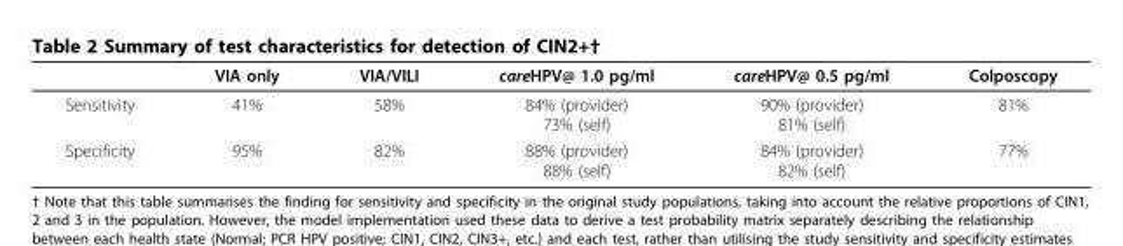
<table><thead><tr><td></td><td>VIA only</td><td>VIA/VILI</td><td>careHPV@ 1.0 pg/ml</td><td>careHPV@ 0.5 pg/ml</td><td>Colposcopy</td></tr></thead><tbody><tr><td>Sensitivity</td><td>41%</td><td>58%</td><td>84% (provider) 73% (self)</td><td>90% (provider) 81% (self)</td><td>81%</td></tr><tr><td>Specificity</td><td>95%</td><td>82%</td><td>88% (provider) 88% (self)</td><td>84% (provider) 82% (self)</td><td>77%</td></tr></tbody></table>